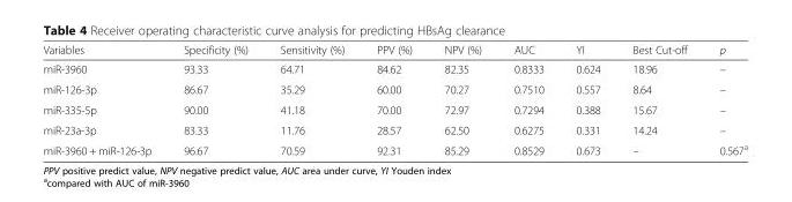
<table><thead><tr><td>Variables</td><td>Specificity (%)</td><td>Sensitivity (%)</td><td>PPV (%)</td><td>NPV (%)</td><td>AUC</td><td>YI</td><td>Best Cut-off</td><td>p</td></tr></thead><tbody><tr><td>miR-3960</td><td>93.33</td><td>64.71</td><td>84.62</td><td>82.35</td><td>0.8333</td><td>0.624</td><td>18.96</td><td>–</td></tr><tr><td>miR-126-3p</td><td>86.67</td><td>35.29</td><td>60.00</td><td>70.27</td><td>0.7510</td><td>0.557</td><td>8.64</td><td>–</td></tr><tr><td>miR-335-5p</td><td>90.00</td><td>41.18</td><td>70.00</td><td>72.97</td><td>0.7294</td><td>0.388</td><td>15.67</td><td>–</td></tr><tr><td>miR-23a-3p</td><td>83.33</td><td>11.76</td><td>28.57</td><td>62.50</td><td>0.6275</td><td>0.331</td><td>14.24</td><td>–</td></tr><tr><td>miR-3960 + miR-126-3p</td><td>96.67</td><td>70.59</td><td>92.31</td><td>85.29</td><td>0.8529</td><td>0.673</td><td>–</td><td>0.567<sup>a</sup></td></tr></tbody></table>